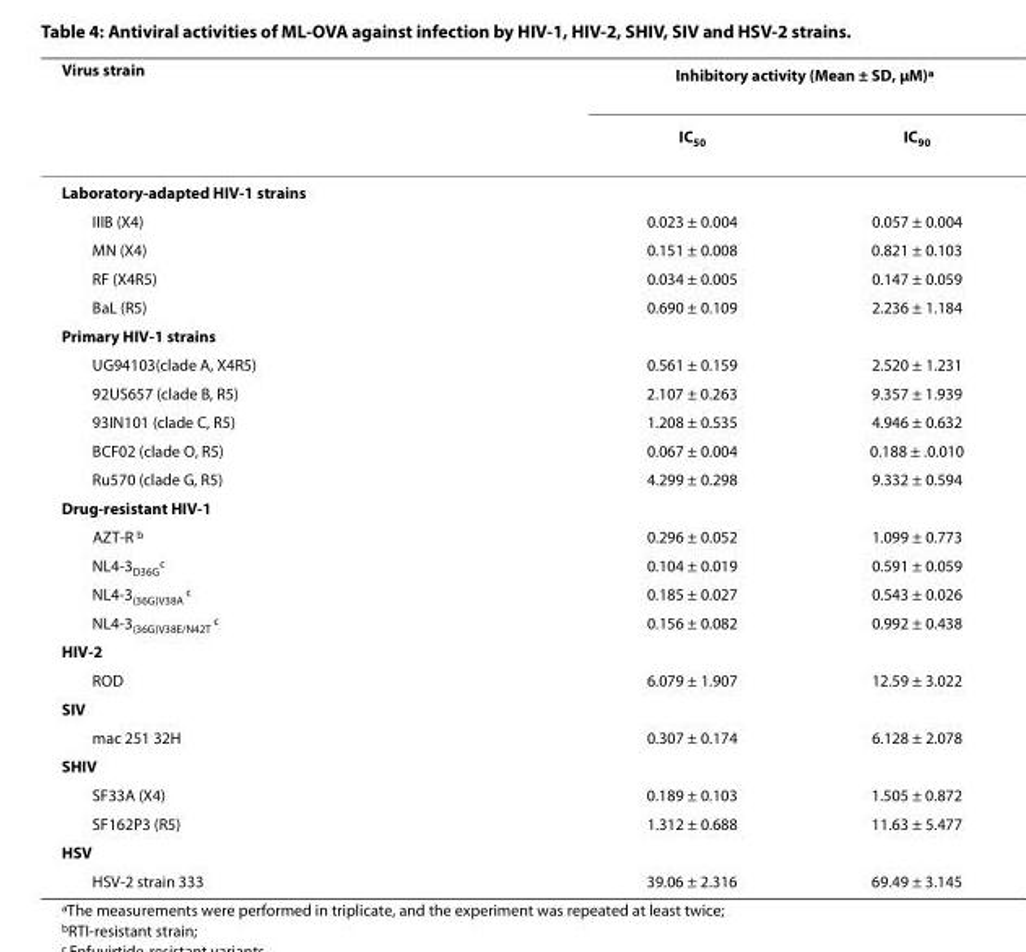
<table><thead><tr><td rowspan="2">Virus strain</td><td colspan="2">Inhibitory activity (Mean ± SD, μM)<sup>a</sup></td></tr><tr><td>IC<sub>50</sub></td><td>IC<sub>90</sub></td></tr></thead><tbody><tr><td colspan="3">Laboratory-adapted HIV-1 strains</td></tr><tr><td>IIIB (X4)</td><td>0.023 ± 0.004</td><td>0.057 ± 0.004</td></tr><tr><td>MN (X4)</td><td>0.151 ± 0.008</td><td>0.821 ± 0.103</td></tr><tr><td>RF (X4R5)</td><td>0.034 ± 0.005</td><td>0.147 ± 0.059</td></tr><tr><td>BaL (R5)</td><td>0.690 ± 0.109</td><td>2.236 ± 1.184</td></tr><tr><td colspan="3">Primary HIV-1 strains</td></tr><tr><td>UG94103(clade A, X4R5)</td><td>0.561 ± 0.159</td><td>2.520 ± 1.231</td></tr><tr><td>92US657 (clade B, R5)</td><td>2.107 ± 0.263</td><td>9.357 ± 1.939</td></tr><tr><td>93IN101 (clade C, R5)</td><td>1.208 ± 0.535</td><td>4.946 ± 0.632</td></tr><tr><td>BCF02 (clade O, R5)</td><td>0.067 ± 0.004</td><td>0.188 ± .0.010</td></tr><tr><td>Ru570 (clade G, R5)</td><td>4.299 ± 0.298</td><td>9.332 ± 0.594</td></tr><tr><td colspan="3">Drug-resistant HIV-1</td></tr><tr><td>AZT-R <sup>b</sup></td><td>0.296 ± 0.052</td><td>1.099 ± 0.773</td></tr><tr><td>NL4-3<sub>D36G</sub><sup>c</sup></td><td>0.104 ± 0.019</td><td>0.591 ± 0.059</td></tr><tr><td>NL4-3<sub>(36G)V38A</sub> <sup>c</sup></td><td>0.185 ± 0.027</td><td>0.543 ± 0.026</td></tr><tr><td>NL4-3<sub>(36G)V38E/N42T</sub> <sup>c</sup></td><td>0.156 ± 0.082</td><td>0.992 ± 0.438</td></tr><tr><td colspan="3">HIV-2</td></tr><tr><td>ROD</td><td>6.079 ± 1.907</td><td>12.59 ± 3.022</td></tr><tr><td colspan="3">SIV</td></tr><tr><td>mac 251 32H</td><td>0.307 ± 0.174</td><td>6.128 ± 2.078</td></tr><tr><td colspan="3">SHIV</td></tr><tr><td>SF33A (X4)</td><td>0.189 ± 0.103</td><td>1.505 ± 0.872</td></tr><tr><td>SF162P3 (R5)</td><td>1.312 ± 0.688</td><td>11.63 ± 5.477</td></tr><tr><td colspan="3">HSV</td></tr><tr><td>HSV-2 strain 333</td><td>39.06 ± 2.316</td><td>69.49 ± 3.145</td></tr></tbody></table>